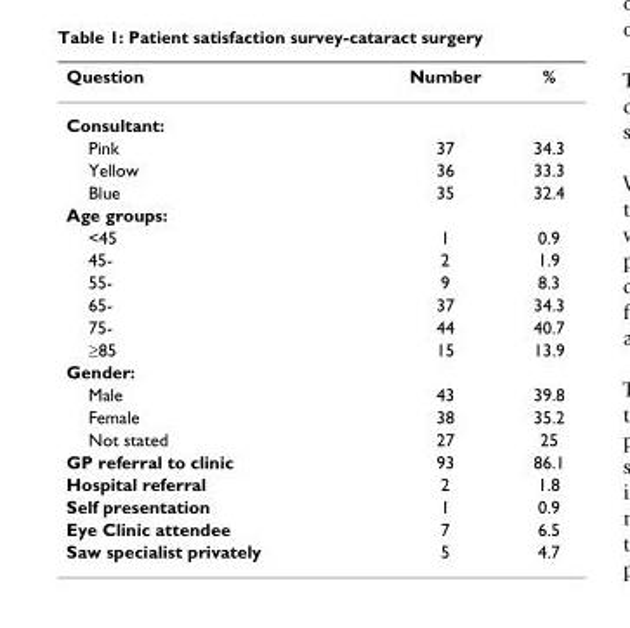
<table><thead><tr><td>Question</td><td>Number</td><td>%</td></tr></thead><tbody><tr><td colspan="3">Consultant:</td></tr><tr><td>Pink</td><td>37</td><td>34.3</td></tr><tr><td>Yellow</td><td>36</td><td>33.3</td></tr><tr><td>Blue</td><td>35</td><td>32.4</td></tr><tr><td colspan="3">Age groups:</td></tr><tr><td>&lt;45</td><td>1</td><td>0.9</td></tr><tr><td>45-</td><td>2</td><td>1.9</td></tr><tr><td>55-</td><td>9</td><td>8.3</td></tr><tr><td>65-</td><td>37</td><td>34.3</td></tr><tr><td>75-</td><td>44</td><td>40.7</td></tr><tr><td>≥85</td><td>15</td><td>13.9</td></tr><tr><td colspan="3">Gender:</td></tr><tr><td>Male</td><td>43</td><td>39.8</td></tr><tr><td>Female</td><td>38</td><td>35.2</td></tr><tr><td>Not stated</td><td>27</td><td>25</td></tr><tr><td>GP referral to clinic</td><td>93</td><td>86.1</td></tr><tr><td>Hospital referral</td><td>2</td><td>1.8</td></tr><tr><td>Self presentation</td><td>1</td><td>0.9</td></tr><tr><td>Eye Clinic attendee</td><td>7</td><td>6.5</td></tr><tr><td>Saw specialist privately</td><td>5</td><td>4.7</td></tr></tbody></table>